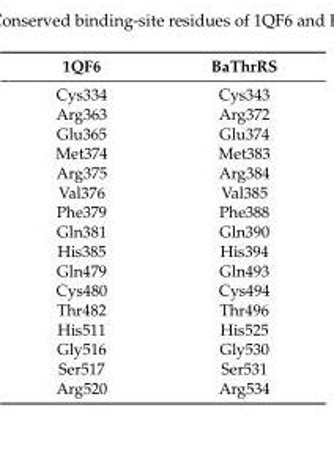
<table><thead><tr><td>1QF6</td><td>BaThrRS</td></tr></thead><tbody><tr><td>Cys334</td><td>Cys343</td></tr><tr><td>Arg363</td><td>Arg372</td></tr><tr><td>Glu365</td><td>Glu374</td></tr><tr><td>Met374</td><td>Met383</td></tr><tr><td>Arg375</td><td>Arg384</td></tr><tr><td>Val376</td><td>Val385</td></tr><tr><td>Phe379</td><td>Phe388</td></tr><tr><td>Gln381</td><td>Gln390</td></tr><tr><td>His385</td><td>His394</td></tr><tr><td>Gln479</td><td>Gln493</td></tr><tr><td>Cys480</td><td>Cys494</td></tr><tr><td>Thr482</td><td>Thr496</td></tr><tr><td>His511</td><td>His525</td></tr><tr><td>Gly516</td><td>Gly530</td></tr><tr><td>Ser517</td><td>Ser531</td></tr><tr><td>Arg520</td><td>Arg534</td></tr></tbody></table>